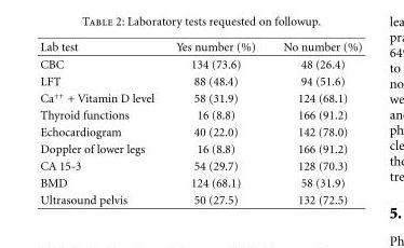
<table><thead><tr><td>Lab test</td><td>Yes number (%)</td><td>No number (%)</td></tr></thead><tbody><tr><td>CBC</td><td>134 (73.6)</td><td>48 (26.4)</td></tr><tr><td>LFT</td><td>88 (48.4)</td><td>94 (51.6)</td></tr><tr><td>Ca<sup>++</sup> + Vitamin D level</td><td>58 (31.9)</td><td>124 (68.1)</td></tr><tr><td>Thyroid functions</td><td>16 (8.8)</td><td>166 (91.2)</td></tr><tr><td>Echocardiogram</td><td>40 (22.0)</td><td>142 (78.0)</td></tr><tr><td>Doppler of lower legs</td><td>16 (8.8)</td><td>166 (91.2)</td></tr><tr><td>CA 15-3</td><td>54 (29.7)</td><td>128 (70.3)</td></tr><tr><td>BMD</td><td>124 (68.1)</td><td>58 (31.9)</td></tr><tr><td>Ultrasound pelvis</td><td>50 (27.5)</td><td>132 (72.5)</td></tr></tbody></table>